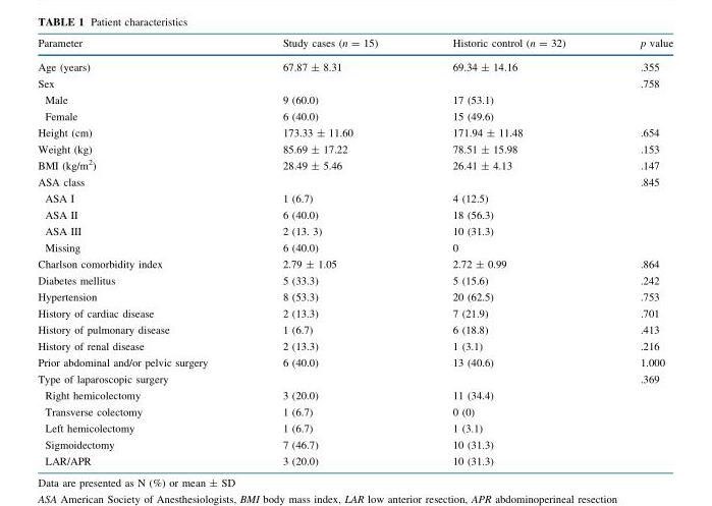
<table><thead><tr><td>Parameter</td><td>Study cases (n = 15)</td><td>Historic control (n = 32)</td><td>p value</td></tr></thead><tbody><tr><td>Age (years)</td><td>67.87 ± 8.31</td><td>69.34 ± 14.16</td><td>.355</td></tr><tr><td>Sex</td><td></td><td></td><td>.758</td></tr><tr><td>Male</td><td>9 (60.0)</td><td>17 (53.1)</td><td></td></tr><tr><td>Female</td><td>6 (40.0)</td><td>15 (49.6)</td><td></td></tr><tr><td>Height (cm)</td><td>173.33 ± 11.60</td><td>171.94 ± 11.48</td><td>.654</td></tr><tr><td>Weight (kg)</td><td>85.69 ± 17.22</td><td>78.51 ± 15.98</td><td>.153</td></tr><tr><td>BMI (kg/m<sup>2</sup>)</td><td>28.49 ± 5.46</td><td>26.41 ± 4.13</td><td>.147</td></tr><tr><td>ASA class</td><td></td><td></td><td>.845</td></tr><tr><td>ASA I</td><td>1 (6.7)</td><td>4 (12.5)</td><td></td></tr><tr><td>ASA II</td><td>6 (40.0)</td><td>18 (56.3)</td><td></td></tr><tr><td>ASA III</td><td>2 (13. 3)</td><td>10 (31.3)</td><td></td></tr><tr><td>Missing</td><td>6 (40.0)</td><td>0</td><td></td></tr><tr><td>Charlson comorbidity index</td><td>2.79 ± 1.05</td><td>2.72 ± 0.99</td><td>.864</td></tr><tr><td>Diabetes mellitus</td><td>5 (33.3)</td><td>5 (15.6)</td><td>.242</td></tr><tr><td>Hypertension</td><td>8 (53.3)</td><td>20 (62.5)</td><td>.753</td></tr><tr><td>History of cardiac disease</td><td>2 (13.3)</td><td>7 (21.9)</td><td>.701</td></tr><tr><td>History of pulmonary disease</td><td>1 (6.7)</td><td>6 (18.8)</td><td>.413</td></tr><tr><td>History of renal disease</td><td>2 (13.3)</td><td>1 (3.1)</td><td>.216</td></tr><tr><td>Prior abdominal and/or pelvic surgery</td><td>6 (40.0)</td><td>13 (40.6)</td><td>1.000</td></tr><tr><td>Type of laparoscopic surgery</td><td></td><td></td><td>.369</td></tr><tr><td>Right hemicolectomy</td><td>3 (20.0)</td><td>11 (34.4)</td><td></td></tr><tr><td>Transverse colectomy</td><td>1 (6.7)</td><td>0 (0)</td><td></td></tr><tr><td>Left hemicolectomy</td><td>1 (6.7)</td><td>1 (3.1)</td><td></td></tr><tr><td>Sigmoidectomy</td><td>7 (46.7)</td><td>10 (31.3)</td><td></td></tr><tr><td>LAR/APR</td><td>3 (20.0)</td><td>10 (31.3)</td><td></td></tr></tbody></table>